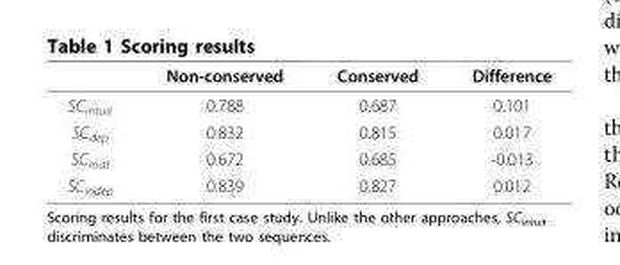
<table><thead><tr><td></td><td>Non-conserved</td><td>Conserved</td><td>Difference</td></tr></thead><tbody><tr><td>SC<sub>intuit</sub></td><td>0.788</td><td>0.687</td><td>0.101</td></tr><tr><td>SC<sub>dep</sub></td><td>0.832</td><td>0.815</td><td>0.017</td></tr><tr><td>SC<sub>mat</sub></td><td>0.672</td><td>0.685</td><td>-0.013</td></tr><tr><td>SC<sub>indep</sub></td><td>0.839</td><td>0.827</td><td>0.012</td></tr></tbody></table>